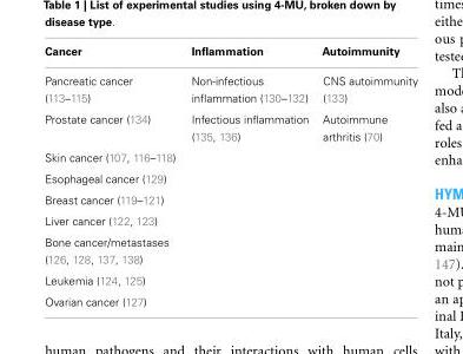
<table><thead><tr><td>Cancer</td><td>Inflammation</td><td>Autoimmunity</td></tr></thead><tbody><tr><td>Pancreatic cancer (113–115)</td><td>Non-infectious inflammation (130–132)</td><td>CNS autoimmunity (133)</td></tr><tr><td>Prostate cancer (134)</td><td>Infectious inflammation (135, 136)</td><td>Autoimmune arthritis (70)</td></tr><tr><td colspan="3">Skin cancer (107, 116–118)</td></tr><tr><td colspan="3">Esophageal cancer (129)</td></tr><tr><td colspan="3">Breast cancer (119–121)</td></tr><tr><td colspan="3">Liver cancer (122, 123)</td></tr><tr><td colspan="3">Bone cancer/metastases (126, 128, 137, 138)</td></tr><tr><td colspan="3">Leukemia (124, 125)</td></tr><tr><td>Ovarian cancer (127)</td><td></td><td></td></tr></tbody></table>